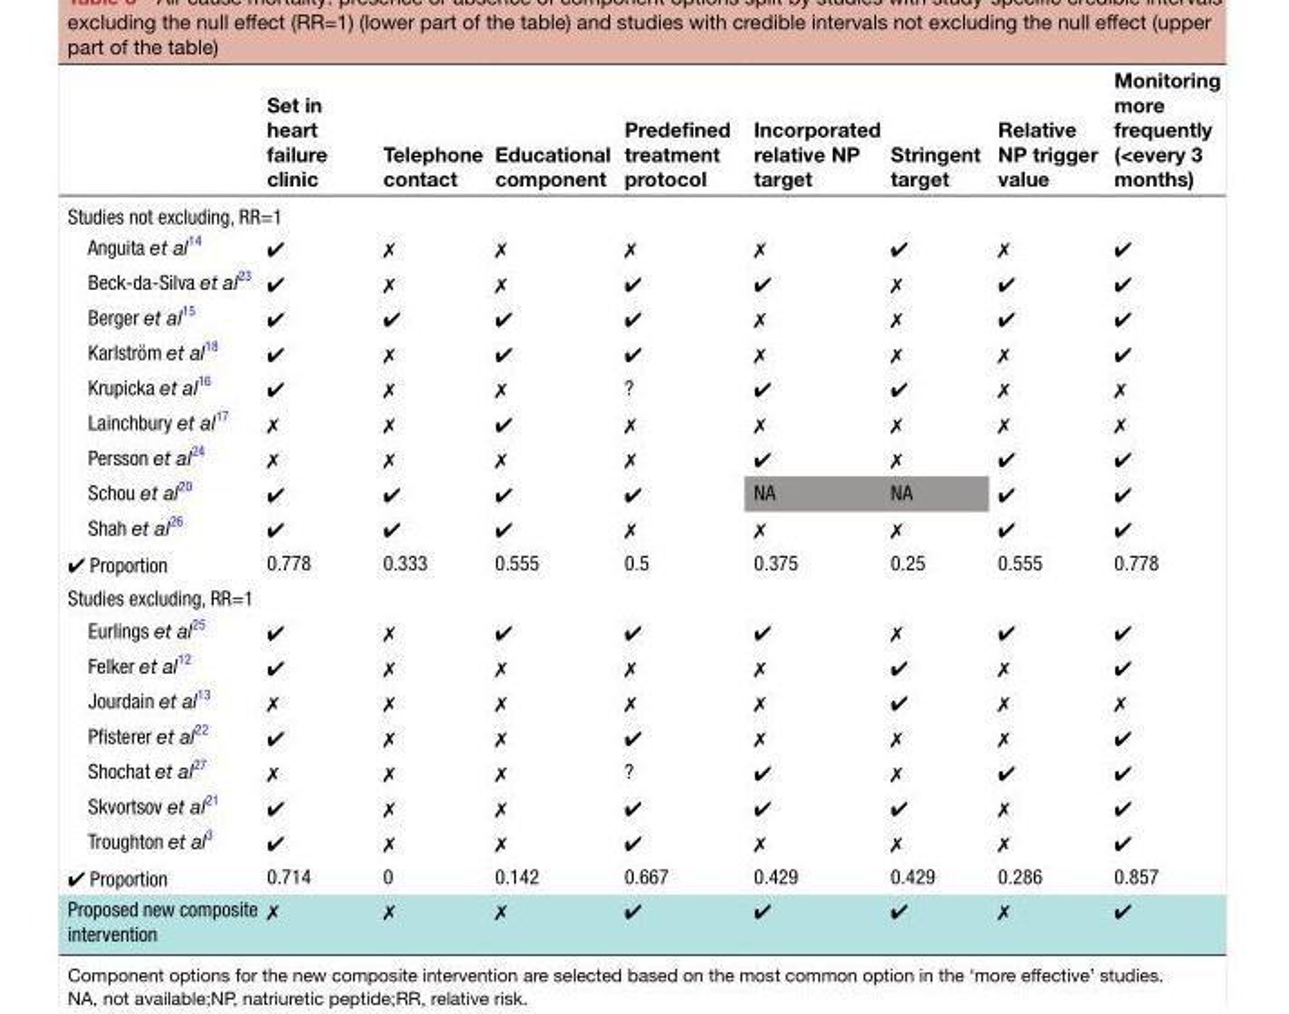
<table><thead><tr><td></td><td>Set in heart failure clinic</td><td>Telephone contact</td><td>Educational component</td><td>Predefined treatment protocol</td><td>Incorporated relative NP target</td><td>Stringent target</td><td>Relative NP trigger value</td><td>Monitoring more frequently (&lt;every 3 months)</td></tr></thead><tbody><tr><td colspan="9">Studies not excluding, RR=1</td></tr><tr><td>Anguita et al14</td><td>✔</td><td>✗</td><td>✗</td><td>✗</td><td>✗</td><td>✔</td><td>✗</td><td>✔</td></tr><tr><td>Beck-da-Silva et al23</td><td>✔</td><td>✗</td><td>✗</td><td>✔</td><td>✔</td><td>✗</td><td>✔</td><td>✔</td></tr><tr><td>Berger et al15</td><td>✔</td><td>✔</td><td>✔</td><td>✔</td><td>✗</td><td>✗</td><td>✔</td><td>✔</td></tr><tr><td>Karlström et al18</td><td>✔</td><td>✗</td><td>✔</td><td>✔</td><td>✗</td><td>✗</td><td>✗</td><td>✔</td></tr><tr><td>Krupicka et al16</td><td>✔</td><td>✗</td><td>✗</td><td>?</td><td>✔</td><td>✔</td><td>✗</td><td>✗</td></tr><tr><td>Lainchbury et al17</td><td>✗</td><td>✗</td><td>✔</td><td>✗</td><td>✗</td><td>✗</td><td>✗</td><td>✗</td></tr><tr><td>Persson et al24</td><td>✗</td><td>✗</td><td>✗</td><td>✗</td><td>✔</td><td>✗</td><td>✔</td><td>✔</td></tr><tr><td>Schou et al20</td><td>✔</td><td>✔</td><td>✔</td><td>✔</td><td>NA</td><td>NA</td><td>✔</td><td>✔</td></tr><tr><td>Shah et al26</td><td>✔</td><td>✔</td><td>✔</td><td>✗</td><td>✗</td><td>✗</td><td>✔</td><td>✔</td></tr><tr><td>✔ Proportion</td><td>0.778</td><td>0.333</td><td>0.555</td><td>0.5</td><td>0.375</td><td>0.25</td><td>0.555</td><td>0.778</td></tr><tr><td colspan="9">Studies excluding, RR=1</td></tr><tr><td>Eurlings et al25</td><td>✔</td><td>✗</td><td>✔</td><td>✔</td><td>✔</td><td>✗</td><td>✔</td><td>✔</td></tr><tr><td>Felker et al12</td><td>✔</td><td>✗</td><td>✗</td><td>✗</td><td>✗</td><td>✔</td><td>✗</td><td>✔</td></tr><tr><td>Jourdain et al13</td><td>✗</td><td>✗</td><td>✗</td><td>✗</td><td>✗</td><td>✔</td><td>✗</td><td>✗</td></tr><tr><td>Pfisterer et al22</td><td>✔</td><td>✗</td><td>✗</td><td>✔</td><td>✗</td><td>✗</td><td>✗</td><td>✔</td></tr><tr><td>Shochat et al27</td><td>✗</td><td>✗</td><td>✗</td><td>?</td><td>✔</td><td>✗</td><td>✔</td><td>✔</td></tr><tr><td>Skvortsov et al21</td><td>✔</td><td>✗</td><td>✗</td><td>✔</td><td>✔</td><td>✔</td><td>✗</td><td>✔</td></tr><tr><td>Troughton et al3</td><td>✔</td><td>✗</td><td>✗</td><td>✔</td><td>✗</td><td>✗</td><td>✗</td><td>✔</td></tr><tr><td>✔ Proportion</td><td>0.714</td><td>0</td><td>0.142</td><td>0.667</td><td>0.429</td><td>0.429</td><td>0.286</td><td>0.857</td></tr><tr><td>Proposed new composite intervention</td><td>✗</td><td>✗</td><td>✗</td><td>✔</td><td>✔</td><td>✔</td><td>✗</td><td>✔</td></tr></tbody></table>